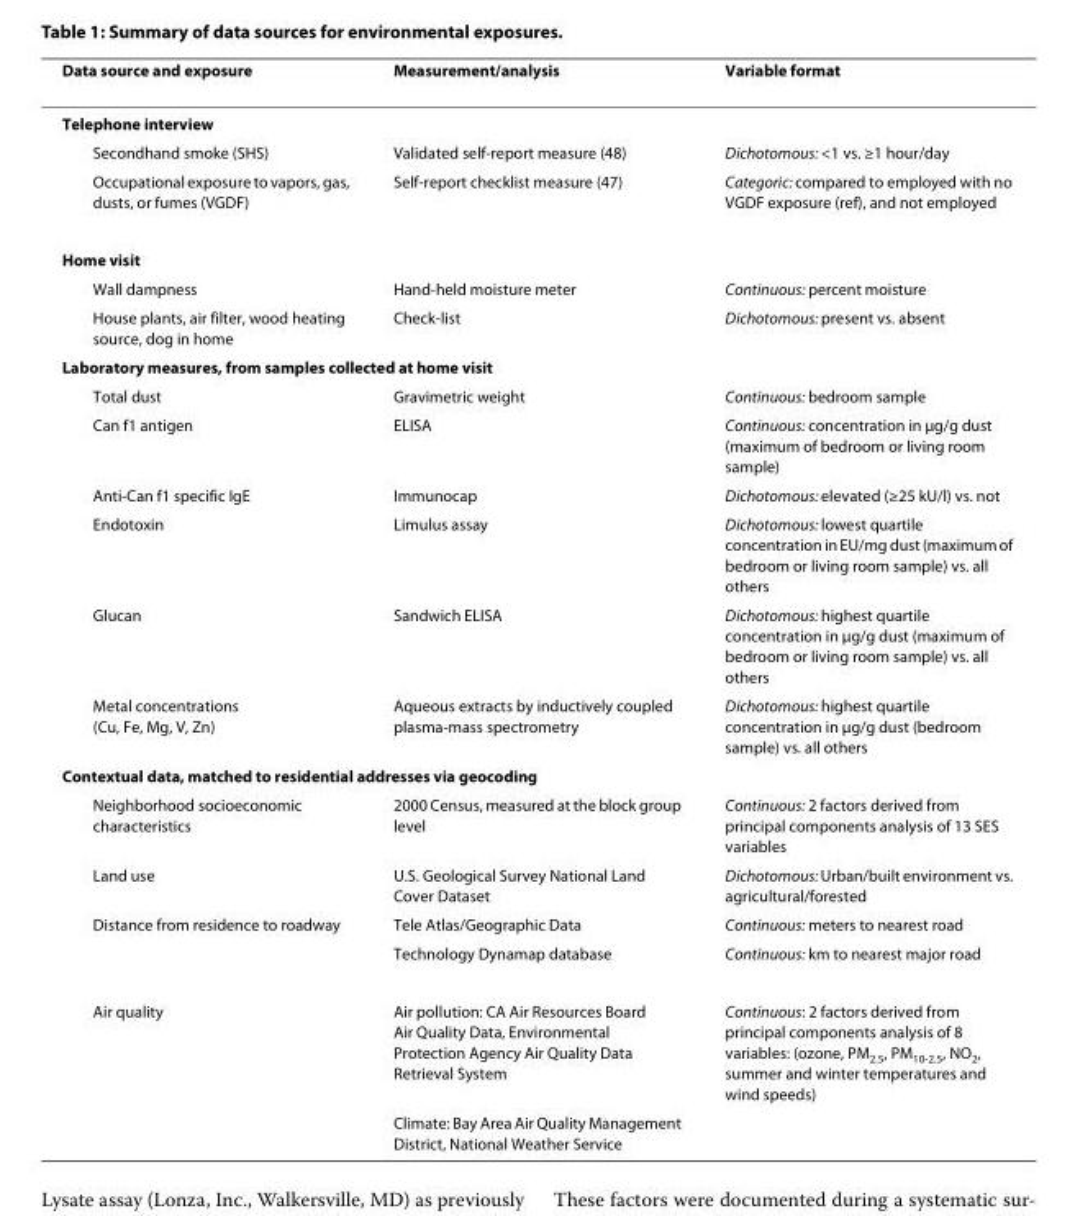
<table><thead><tr><td>Data source and exposure</td><td>Measurement/analysis</td><td>Variable format</td></tr></thead><tbody><tr><td colspan="3">Telephone interview</td></tr><tr><td>Secondhand smoke (SHS)</td><td>Validated self-report measure (48)</td><td>Dichotomous: &lt;1 vs. ≥1 hour/day</td></tr><tr><td>Occupational exposure to vapors, gas, dusts, or fumes (VGDF)</td><td>Self-report checklist measure (47)</td><td>Categoric: compared to employed with no VGDF exposure (ref), and not employed</td></tr><tr><td colspan="3">Home visit</td></tr><tr><td>Wall dampness</td><td>Hand-held moisture meter</td><td>Continuous: percent moisture</td></tr><tr><td>House plants, air filter, wood heating source, dog in home</td><td>Check-list</td><td>Dichotomous: present vs. absent</td></tr><tr><td colspan="3">Laboratory measures, from samples collected at home visit</td></tr><tr><td>Total dust</td><td>Gravimetric weight</td><td>Continuous: bedroom sample</td></tr><tr><td>Can f1 antigen</td><td>ELISA</td><td>Continuous: concentration in μg/g dust (maximum of bedroom or living room sample)</td></tr><tr><td>Anti-Can f1 specific IgE</td><td>Immunocap</td><td>Dichotomous: elevated (≥25 kU/l) vs. not</td></tr><tr><td>Endotoxin</td><td>Limulus assay</td><td>Dichotomous: lowest quartile concentration in EU/mg dust (maximum of bedroom or living room sample) vs. all others</td></tr><tr><td>Glucan</td><td>Sandwich ELISA</td><td>Dichotomous: highest quartile concentration in μg/g dust (maximum of bedroom or living room sample) vs. all others</td></tr><tr><td>Metal concentrations (Cu, Fe, Mg, V, Zn)</td><td>Aqueous extracts by inductively coupled plasma-mass spectrometry</td><td>Dichotomous: highest quartile concentration in μg/g dust (bedroom sample) vs. all others</td></tr><tr><td colspan="3">Contextual data, matched to residential addresses via geocoding</td></tr><tr><td>Neighborhood socioeconomic characteristics</td><td>2000 Census, measured at the block group level</td><td>Continuous: 2 factors derived from principal components analysis of 13 SES variables</td></tr><tr><td>Land use</td><td>U.S. Geological Survey National Land Cover Dataset</td><td>Dichotomous: Urban/built environment vs. agricultural/forested</td></tr><tr><td rowspan="2">Distance from residence to roadway</td><td>Tele Atlas/Geographic Data</td><td>Continuous: meters to nearest road</td></tr><tr><td>Technology Dynamap database</td><td>Continuous: km to nearest major road</td></tr><tr><td rowspan="2">Air quality</td><td>Air pollution: CA Air Resources Board Air Quality Data, Environmental Protection Agency Air Quality Data Retrieval System</td><td>Continuous: 2 factors derived from principal components analysis of 8 variables: (ozone, PM<sub>2.5</sub>, PM<sub>10-2.5</sub>, NO<sub>2</sub>, summer and winter temperatures and wind speeds)</td></tr><tr><td>Climate: Bay Area Air Quality Management District, National Weather Service</td><td></td></tr></tbody></table>